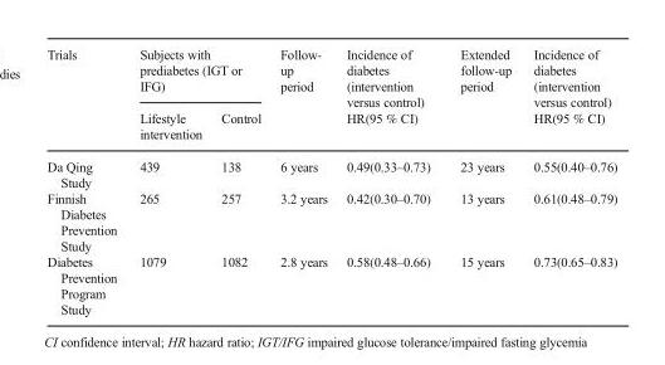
<table><thead><tr><td rowspan="2">Trials</td><td colspan="2">Subjects with prediabetes (IGT or IFG)</td><td rowspan="2">Follow- up period</td><td rowspan="2">Incidence of diabetes (intervention versus control) HR(95 % CI)</td><td rowspan="2">Extended follow-up period</td><td rowspan="2">Incidence of diabetes (intervention versus control) HR(95 % CI)</td></tr><tr><td>Lifestyle intervention</td><td>Control</td></tr></thead><tbody><tr><td>Da Qing Study</td><td>439</td><td>138</td><td>6 years</td><td>0.49(0.33–0.73)</td><td>23 years</td><td>0.55(0.40–0.76)</td></tr><tr><td>Finnish Diabetes Prevention Study</td><td>265</td><td>257</td><td>3.2 years</td><td>0.42(0.30–0.70)</td><td>13 years</td><td>0.61(0.48–0.79)</td></tr><tr><td>Diabetes Prevention Program Study</td><td>1079</td><td>1082</td><td>2.8 years</td><td>0.58(0.48–0.66)</td><td>15 years</td><td>0.73(0.65–0.83)</td></tr></tbody></table>